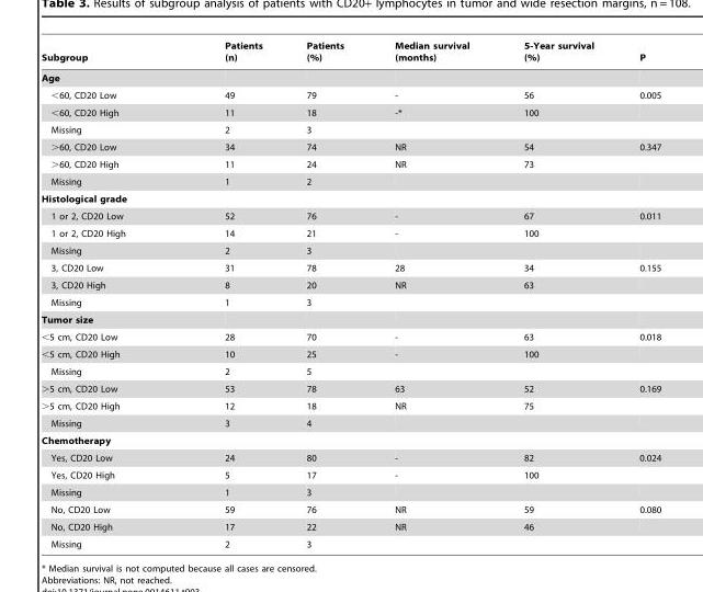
<table><thead><tr><td>Subgroup</td><td>Patients (n)</td><td>Patients (%)</td><td>Median survival (months)</td><td>5-Year survival (%)</td><td>P</td></tr></thead><tbody><tr><td colspan="6">Age</td></tr><tr><td>&lt;60, CD20 Low</td><td>49</td><td>79</td><td>-</td><td>56</td><td>0.005</td></tr><tr><td>&lt;60, CD20 High</td><td>11</td><td>18</td><td>-*</td><td>100</td><td></td></tr><tr><td>Missing</td><td>2</td><td>3</td><td></td><td></td><td></td></tr><tr><td>&gt;60, CD20 Low</td><td>34</td><td>74</td><td>NR</td><td>54</td><td>0.347</td></tr><tr><td>&gt;60, CD20 High</td><td>11</td><td>24</td><td>NR</td><td>73</td><td></td></tr><tr><td>Missing</td><td>1</td><td>2</td><td></td><td></td><td></td></tr><tr><td colspan="6">Histological grade</td></tr><tr><td>1 or 2, CD20 Low</td><td>52</td><td>76</td><td>-</td><td>67</td><td>0.011</td></tr><tr><td>1 or 2, CD20 High</td><td>14</td><td>21</td><td>-</td><td>100</td><td></td></tr><tr><td>Missing</td><td>2</td><td>3</td><td></td><td></td><td></td></tr><tr><td>3, CD20 Low</td><td>31</td><td>78</td><td>28</td><td>34</td><td>0.155</td></tr><tr><td>3, CD20 High</td><td>8</td><td>20</td><td>NR</td><td>63</td><td></td></tr><tr><td>Missing</td><td>1</td><td>3</td><td></td><td></td><td></td></tr><tr><td colspan="6">Tumor size</td></tr><tr><td>&lt;5 cm, CD20 Low</td><td>28</td><td>70</td><td>-</td><td>63</td><td>0.018</td></tr><tr><td>&lt;5 cm, CD20 High</td><td>10</td><td>25</td><td>-</td><td>100</td><td></td></tr><tr><td>Missing</td><td>2</td><td>5</td><td></td><td></td><td></td></tr><tr><td>&gt;5 cm, CD20 Low</td><td>53</td><td>78</td><td>63</td><td>52</td><td>0.169</td></tr><tr><td>&gt;5 cm, CD20 High</td><td>12</td><td>18</td><td>NR</td><td>75</td><td></td></tr><tr><td>Missing</td><td>3</td><td>4</td><td></td><td></td><td></td></tr><tr><td colspan="6">Chemotherapy</td></tr><tr><td>Yes, CD20 Low</td><td>24</td><td>80</td><td>-</td><td>82</td><td>0.024</td></tr><tr><td>Yes, CD20 High</td><td>5</td><td>17</td><td>-</td><td>100</td><td></td></tr><tr><td>Missing</td><td>1</td><td>3</td><td></td><td></td><td></td></tr><tr><td>No, CD20 Low</td><td>59</td><td>76</td><td>NR</td><td>59</td><td>0.080</td></tr><tr><td>No, CD20 High</td><td>17</td><td>22</td><td>NR</td><td>46</td><td></td></tr><tr><td>Missing</td><td>2</td><td>3</td><td></td><td></td><td></td></tr></tbody></table>